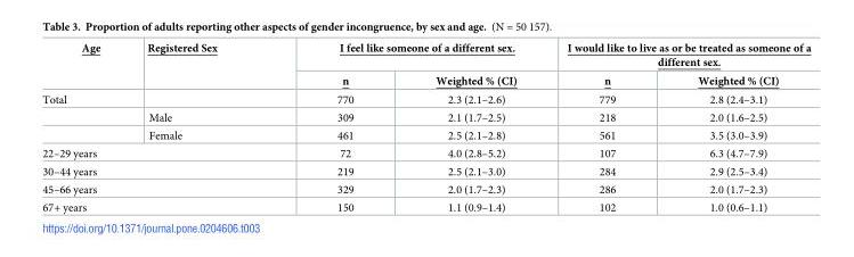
<table><thead><tr><td rowspan="2">Age</td><td rowspan="2">Registered Sex</td><td colspan="2">I feel like someone of a different sex.</td><td colspan="2">I would like to live as or be treated as someone of a different sex.</td></tr><tr><td>n</td><td>Weighted % (CI)</td><td>n</td><td>Weighted % (CI)</td></tr></thead><tbody><tr><td rowspan="3">Total</td><td></td><td>770</td><td>2.3 (2.1–2.6)</td><td>779</td><td>2.8 (2.4–3.1)</td></tr><tr><td>Male</td><td>309</td><td>2.1 (1.7–2.5)</td><td>218</td><td>2.0 (1.6–2.5)</td></tr><tr><td>Female</td><td>461</td><td>2.5 (2.1–2.8)</td><td>561</td><td>3.5 (3.0–3.9)</td></tr><tr><td colspan="2">22–29 years</td><td>72</td><td>4.0 (2.8–5.2)</td><td>107</td><td>6.3 (4.7–7.9)</td></tr><tr><td colspan="2">30–44 years</td><td>219</td><td>2.5 (2.1–3.0)</td><td>284</td><td>2.9 (2.5–3.4)</td></tr><tr><td colspan="2">45–66 years</td><td>329</td><td>2.0 (1.7–2.3)</td><td>286</td><td>2.0 (1.7–2.3)</td></tr><tr><td colspan="2">67+ years</td><td>150</td><td>1.1 (0.9–1.4)</td><td>102</td><td>1.0 (0.6–1.1)</td></tr></tbody></table>